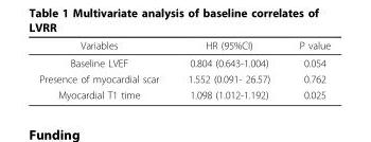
<table><thead><tr><td>Variables</td><td>HR (95%CI)</td><td>P value</td></tr></thead><tbody><tr><td>Baseline LVEF</td><td>0.804 (0.643-1.004)</td><td>0.054</td></tr><tr><td>Presence of myocardial scar</td><td>1.552 (0.091- 26.57)</td><td>0.762</td></tr><tr><td>Myocardial T1 time</td><td>1.098 (1.012-1.192)</td><td>0.025</td></tr></tbody></table>